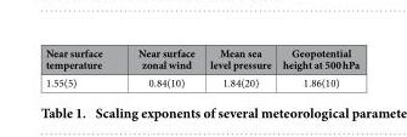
<table><thead><tr><td>Near surface temperature</td><td>Near surface zonal wind</td><td>Mean sea level pressure</td><td>Geopotential height at 500 hPa</td></tr></thead><tbody><tr><td>1.55(5)</td><td>0.84(10)</td><td>1.84(20)</td><td>1.86(10)</td></tr></tbody></table>